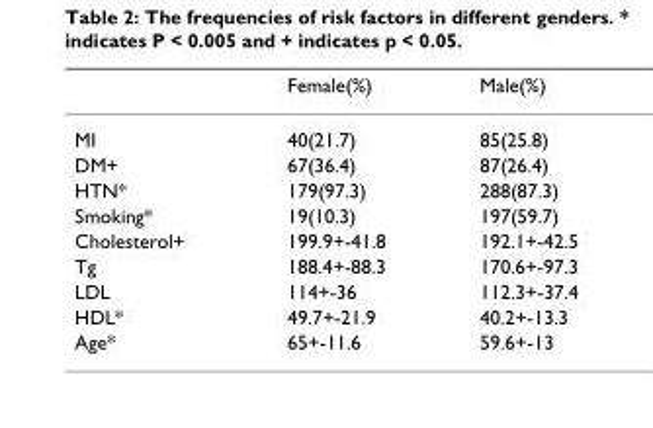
<table><thead><tr><td></td><td>Female(%)</td><td>Male(%)</td></tr></thead><tbody><tr><td>MI</td><td>40(21.7)</td><td>85(25.8)</td></tr><tr><td>DM+</td><td>67(36.4)</td><td>87(26.4)</td></tr><tr><td>HTN*</td><td>179(97.3)</td><td>288(87.3)</td></tr><tr><td>Smoking*</td><td>19(10.3)</td><td>197(59.7)</td></tr><tr><td>Cholesterol+</td><td>199.9+-41.8</td><td>192.1+-42.5</td></tr><tr><td>Tg</td><td>188.4+-88.3</td><td>170.6+-97.3</td></tr><tr><td>LDL</td><td>114+-36</td><td>112.3+-37.4</td></tr><tr><td>HDL*</td><td>49.7+-21.9</td><td>40.2+-13.3</td></tr><tr><td>Age*</td><td>65+-11.6</td><td>59.6+-13</td></tr></tbody></table>